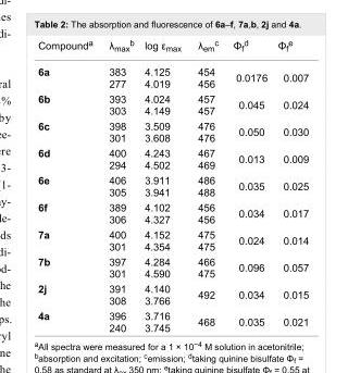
<table><tbody><tr><td>Compound<sup>a</sup></td><td>λ<sub>max</sub><sup>b</sup></td><td>log ε<sub>max</sub></td><td>λ<sub>em</sub><sup>c</sup></td><td>Φ<sub>f</sub><sup>d</sup></td><td>Φ<sub>f</sub><sup>e</sup></td></tr><tr><td>6a</td><td>383 277</td><td>4.125 4.019</td><td>454 456</td><td>0.0176</td><td>0.007</td></tr><tr><td>6b</td><td>393 303</td><td>4.024 4.149</td><td>457 457</td><td>0.045</td><td>0.024</td></tr><tr><td>6c</td><td>398 301</td><td>3.509 3.608</td><td>476 476</td><td>0.050</td><td>0.030</td></tr><tr><td>6d</td><td>400 294</td><td>4.243 4.502</td><td>467 469</td><td>0.013</td><td>0.009</td></tr><tr><td>6e</td><td>406 305</td><td>3.911 3.941</td><td>486 488</td><td>0.035</td><td>0.025</td></tr><tr><td>6f</td><td>389 306</td><td>4.102 4.327</td><td>456 456</td><td>0.034</td><td>0.017</td></tr><tr><td>7a</td><td>400 301</td><td>4.152 4.354</td><td>475 475</td><td>0.024</td><td>0.014</td></tr><tr><td>7b</td><td>397 301</td><td>4.284 4.590</td><td>466 475</td><td>0.096</td><td>0.057</td></tr><tr><td>2j</td><td>391 308</td><td>4.140 3.766</td><td>492</td><td>0.034</td><td>0.015</td></tr><tr><td>4a</td><td>396 240</td><td>3.716 3.745</td><td>468</td><td>0.035</td><td>0.021</td></tr></tbody></table>